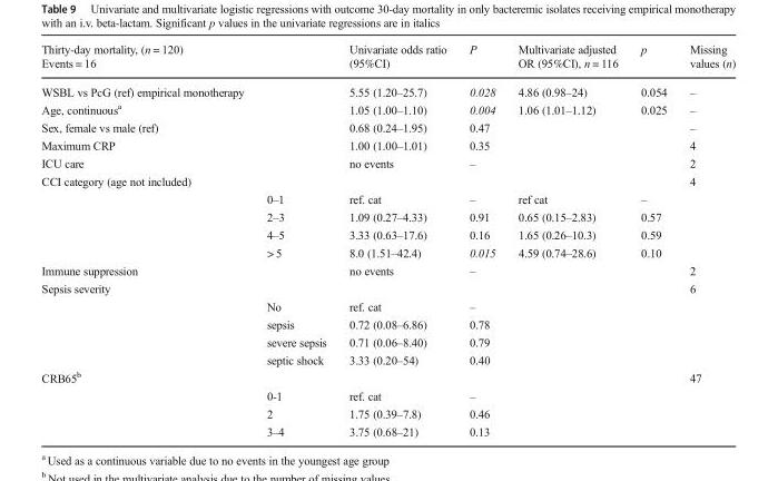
<table><thead><tr><td>Thirty-day mortality, (n = 120) Events = 16</td><td></td><td>Univariate odds ratio (95%CI)</td><td>P</td><td>Multivariate adjusted OR (95%CI), n = 116</td><td>p</td><td>Missing values (n)</td></tr></thead><tbody><tr><td>WSBL vs PcG (ref) empirical monotherapy</td><td></td><td>5.55 (1.20–25.7)</td><td>0.028</td><td>4.86 (0.98–24)</td><td>0.054</td><td>–</td></tr><tr><td>Age, continuous<sup>a</sup></td><td></td><td>1.05 (1.00–1.10)</td><td>0.004</td><td>1.06 (1.01–1.12)</td><td>0.025</td><td>–</td></tr><tr><td>Sex, female vs male (ref)</td><td></td><td>0.68 (0.24–1.95)</td><td>0.47</td><td></td><td></td><td>–</td></tr><tr><td>Maximum CRP</td><td></td><td>1.00 (1.00–1.01)</td><td>0.35</td><td></td><td></td><td>4</td></tr><tr><td>ICU care</td><td></td><td>no events</td><td>–</td><td></td><td></td><td>2</td></tr><tr><td rowspan="5">CCI category (age not included)</td><td></td><td></td><td></td><td></td><td></td><td>4</td></tr><tr><td>0–1</td><td>ref. cat</td><td>–</td><td>ref cat</td><td>–</td><td></td></tr><tr><td>2–3</td><td>1.09 (0.27–4.33)</td><td>0.91</td><td>0.65 (0.15–2.83)</td><td>0.57</td><td></td></tr><tr><td>4–5</td><td>3.33 (0.63–17.6)</td><td>0.16</td><td>1.65 (0.26–10.3)</td><td>0.59</td><td></td></tr><tr><td>&gt; 5</td><td>8.0 (1.51–42.4)</td><td>0.015</td><td>4.59 (0.74–28.6)</td><td>0.10</td><td></td></tr><tr><td>Immune suppression</td><td></td><td>no events</td><td>–</td><td></td><td></td><td>2</td></tr><tr><td rowspan="5">Sepsis severity</td><td></td><td></td><td></td><td></td><td></td><td>6</td></tr><tr><td>No</td><td>ref. cat</td><td>–</td><td></td><td></td><td></td></tr><tr><td>sepsis</td><td>0.72 (0.08–6.86)</td><td>0.78</td><td></td><td></td><td></td></tr><tr><td>severe sepsis</td><td>0.71 (0.06–8.40)</td><td>0.79</td><td></td><td></td><td></td></tr><tr><td>septic shock</td><td>3.33 (0.20–54)</td><td>0.40</td><td></td><td></td><td></td></tr><tr><td rowspan="4">CRB65<sup>b</sup></td><td></td><td></td><td></td><td></td><td></td><td>47</td></tr><tr><td>0-1</td><td>ref. cat</td><td>–</td><td></td><td></td><td></td></tr><tr><td>2</td><td>1.75 (0.39–7.8)</td><td>0.46</td><td></td><td></td><td></td></tr><tr><td>3–4</td><td>3.75 (0.68–21)</td><td>0.13</td><td></td><td></td><td></td></tr></tbody></table>